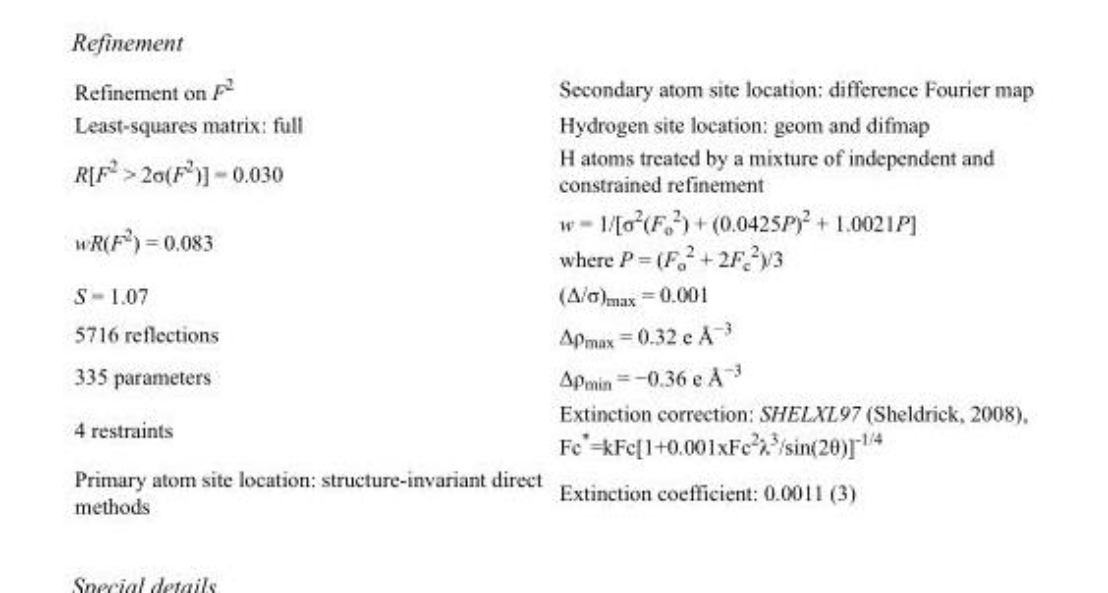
<table><tbody><tr><td>Refinement on F<sup>2</sup></td><td>Secondary atom site location: difference Fourier map</td></tr><tr><td>Least-squares matrix: full</td><td>Hydrogen site location: geom and difmap</td></tr><tr><td>R[F<sup>2</sup> &gt; 2σ(F<sup>2</sup>)] = 0.030</td><td>H atoms treated by a mixture of independent and constrained refinement</td></tr><tr><td>wR(F<sup>2</sup>) = 0.083</td><td>w = 1/[σ<sup>2</sup>(F<sub>o</sub> <sup>2</sup>) + (0.0425P)<sup>2</sup> + 1.0021P] where P = (F<sub>o</sub> <sup>2</sup> + 2F<sub>c</sub> <sup>2</sup>)/3</td></tr><tr><td>S = 1.07</td><td>(Δ/σ)<sub>max</sub> = 0.001</td></tr><tr><td>5716 reflections</td><td>Δρ<sub>max</sub> = 0.32 e Å<sup>−3</sup></td></tr><tr><td>335 parameters</td><td>Δρ<sub>min</sub> = −0.36 e Å<sup>−3</sup></td></tr><tr><td>4 restraints</td><td>Extinction correction: SHELXL97 (Sheldrick, 2008), Fc*=kFc[1+0.001xFc<sup>2</sup>λ<sup>3</sup>/sin(2θ)]<sup>-1/4</sup></td></tr><tr><td>Primary atom site location: structure-invariant direct methods</td><td>Extinction coefficient: 0.0011 (3)</td></tr></tbody></table>